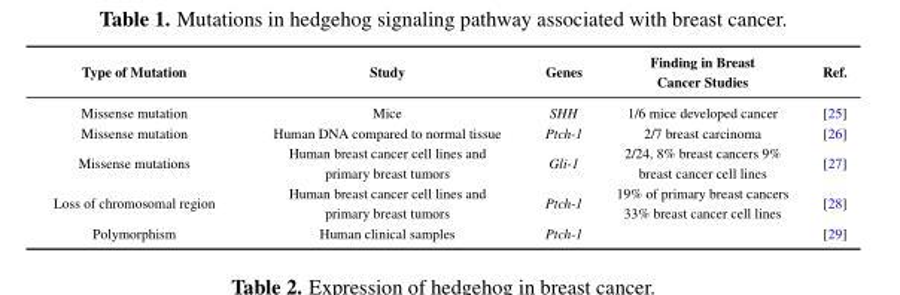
<table><thead><tr><td>Type of Mutation</td><td>Study</td><td>Genes</td><td>Finding in Breast Cancer Studies</td><td>Ref.</td></tr></thead><tbody><tr><td>Missense mutation</td><td>Mice</td><td>SHH</td><td>1/6 mice developed cancer</td><td>[25]</td></tr><tr><td>Missense mutation</td><td>Human DNA compared to normal tissue</td><td>Ptch-1</td><td>2/7 breast carcinoma</td><td>[26]</td></tr><tr><td>Missense mutations</td><td>Human breast cancer cell lines and primary breast tumors</td><td>Gli-1</td><td>2/24, 8% breast cancers 9% breast cancer cell lines</td><td>[27]</td></tr><tr><td>Loss of chromosomal region</td><td>Human breast cancer cell lines and primary breast tumors</td><td>Ptch-1</td><td>19% of primary breast cancers 33% breast cancer cell lines</td><td>[28]</td></tr><tr><td>Polymorphism</td><td>Human clinical samples</td><td>Ptch-1</td><td></td><td>[29]</td></tr></tbody></table>